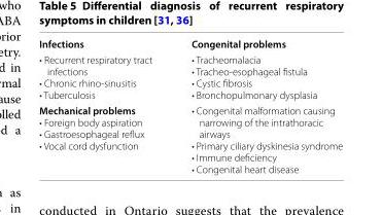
<table><tbody><tr><td>Infections</td><td>Congenital problems</td></tr><tr><td>• Recurrent respiratory tract infections • Chronic rhino-sinusitis • Tuberculosis</td><td>• Tracheomalacia • Tracheo-esophageal fistula • Cystic fibrosis • Bronchopulmonary dysplasia</td></tr><tr><td>Mechanical problems • Foreign body aspiration • Gastroesophageal reflux • Vocal cord dysfunction</td><td>• Congenital malformation causing narrowing of the intrathoracic airways • Primary ciliary dyskinesia syndrome • Immune deficiency • Congenital heart disease</td></tr></tbody></table>